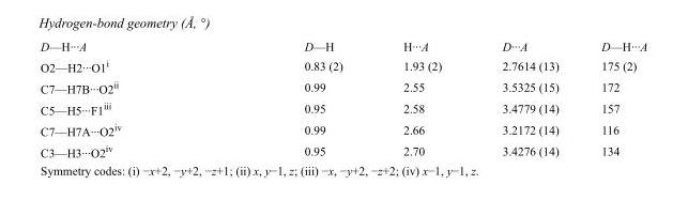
<table><tbody><tr><td>D—H···A</td><td>D—H</td><td>H···A</td><td>D···A</td><td>D—H···A</td></tr><tr><td>O2—H2···O1<sup>i</sup></td><td>0.83 (2)</td><td>1.93 (2)</td><td>2.7614 (13)</td><td>175 (2)</td></tr><tr><td>C7—H7B···O2<sup>ii</sup></td><td>0.99</td><td>2.55</td><td>3.5325 (15)</td><td>172</td></tr><tr><td>C5—H5···F1<sup>iii</sup></td><td>0.95</td><td>2.58</td><td>3.4779 (14)</td><td>157</td></tr><tr><td>C7—H7A···O2<sup>iv</sup></td><td>0.99</td><td>2.66</td><td>3.2172 (14)</td><td>116</td></tr><tr><td>C3—H3···O2<sup>iv</sup></td><td>0.95</td><td>2.70</td><td>3.4276 (14)</td><td>134</td></tr></tbody></table>